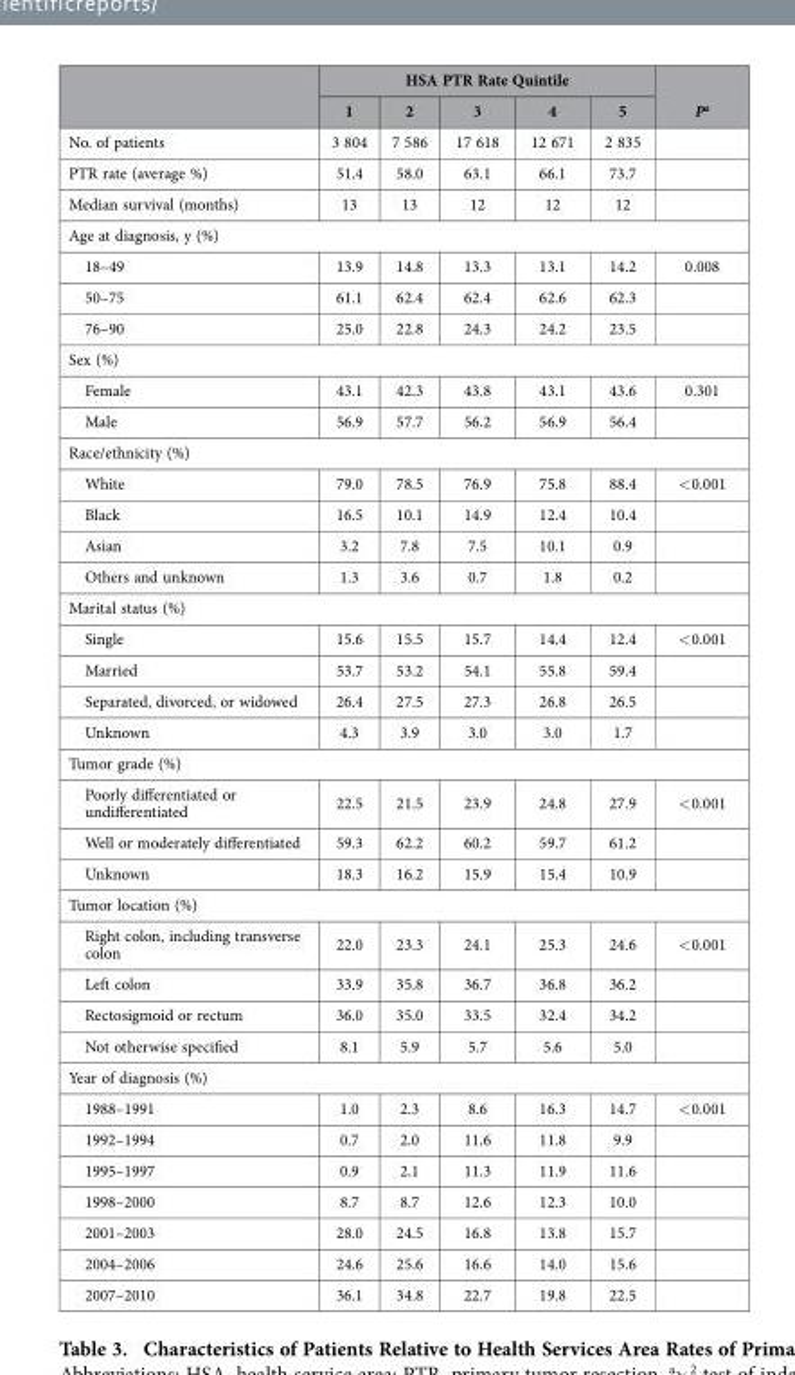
<table><thead><tr><td rowspan="2"></td><td colspan="5">HSA PTR Rate Quintile</td><td rowspan="2">P<sup>a</sup></td></tr><tr><td>1</td><td>2</td><td>3</td><td>4</td><td>5</td></tr></thead><tbody><tr><td>No. of patients</td><td>3 804</td><td>7 586</td><td>17 618</td><td>12 671</td><td>2 835</td><td></td></tr><tr><td>PTR rate (average %)</td><td>51.4</td><td>58.0</td><td>63.1</td><td>66.1</td><td>73.7</td><td></td></tr><tr><td>Median survival (months)</td><td>13</td><td>13</td><td>12</td><td>12</td><td>12</td><td></td></tr><tr><td colspan="7">Age at diagnosis, y (%)</td></tr><tr><td>18–49</td><td>13.9</td><td>14.8</td><td>13.3</td><td>13.1</td><td>14.2</td><td>0.008</td></tr><tr><td>50–75</td><td>61.1</td><td>62.4</td><td>62.4</td><td>62.6</td><td>62.3</td><td></td></tr><tr><td>76–90</td><td>25.0</td><td>22.8</td><td>24.3</td><td>24.2</td><td>23.5</td><td></td></tr><tr><td colspan="7">Sex (%)</td></tr><tr><td>Female</td><td>43.1</td><td>42.3</td><td>43.8</td><td>43.1</td><td>43.6</td><td>0.301</td></tr><tr><td>Male</td><td>56.9</td><td>57.7</td><td>56.2</td><td>56.9</td><td>56.4</td><td></td></tr><tr><td colspan="7">Race/ethnicity (%)</td></tr><tr><td>White</td><td>79.0</td><td>78.5</td><td>76.9</td><td>75.8</td><td>88.4</td><td>&lt; 0.001</td></tr><tr><td>Black</td><td>16.5</td><td>10.1</td><td>14.9</td><td>12.4</td><td>10.4</td><td></td></tr><tr><td>Asian</td><td>3.2</td><td>7.8</td><td>7.5</td><td>10.1</td><td>0.9</td><td></td></tr><tr><td>Others and unknown</td><td>1.3</td><td>3.6</td><td>0.7</td><td>1.8</td><td>0.2</td><td></td></tr><tr><td colspan="7">Marital status (%)</td></tr><tr><td>Single</td><td>15.6</td><td>15.5</td><td>15.7</td><td>14.4</td><td>12.4</td><td>&lt; 0.001</td></tr><tr><td>Married</td><td>53.7</td><td>53.2</td><td>54.1</td><td>55.8</td><td>59.4</td><td></td></tr><tr><td>Separated, divorced, or widowed</td><td>26.4</td><td>27.5</td><td>27.3</td><td>26.8</td><td>26.5</td><td></td></tr><tr><td>Unknown</td><td>4.3</td><td>3.9</td><td>3.0</td><td>3.0</td><td>1.7</td><td></td></tr><tr><td colspan="7">Tumor grade (%)</td></tr><tr><td>Poorly differentiated or undifferentiated</td><td>22.5</td><td>21.5</td><td>23.9</td><td>24.8</td><td>27.9</td><td>&lt; 0.001</td></tr><tr><td>Well or moderately differentiated</td><td>59.3</td><td>62.2</td><td>60.2</td><td>59.7</td><td>61.2</td><td></td></tr><tr><td>Unknown</td><td>18.3</td><td>16.2</td><td>15.9</td><td>15.4</td><td>10.9</td><td></td></tr><tr><td colspan="7">Tumor location (%)</td></tr><tr><td>Right colon, including transverse colon</td><td>22.0</td><td>23.3</td><td>24.1</td><td>25.3</td><td>24.6</td><td>&lt; 0.001</td></tr><tr><td>Left colon</td><td>33.9</td><td>35.8</td><td>36.7</td><td>36.8</td><td>36.2</td><td></td></tr><tr><td>Rectosigmoid or rectum</td><td>36.0</td><td>35.0</td><td>33.5</td><td>32.4</td><td>34.2</td><td></td></tr><tr><td>Not otherwise specified</td><td>8.1</td><td>5.9</td><td>5.7</td><td>5.6</td><td>5.0</td><td></td></tr><tr><td colspan="7">Year of diagnosis (%)</td></tr><tr><td>1988–1991</td><td>1.0</td><td>2.3</td><td>8.6</td><td>16.3</td><td>14.7</td><td>&lt; 0.001</td></tr><tr><td>1992–1994</td><td>0.7</td><td>2.0</td><td>11.6</td><td>11.8</td><td>9.9</td><td></td></tr><tr><td>1995–1997</td><td>0.9</td><td>2.1</td><td>11.3</td><td>11.9</td><td>11.6</td><td></td></tr><tr><td>1998–2000</td><td>8.7</td><td>8.7</td><td>12.6</td><td>12.3</td><td>10.0</td><td></td></tr><tr><td>2001–2003</td><td>28.0</td><td>24.5</td><td>16.8</td><td>13.8</td><td>15.7</td><td></td></tr><tr><td>2004–2006</td><td>24.6</td><td>25.6</td><td>16.6</td><td>14.0</td><td>15.6</td><td></td></tr><tr><td>2007–2010</td><td>36.1</td><td>34.8</td><td>22.7</td><td>19.8</td><td>22.5</td><td></td></tr></tbody></table>